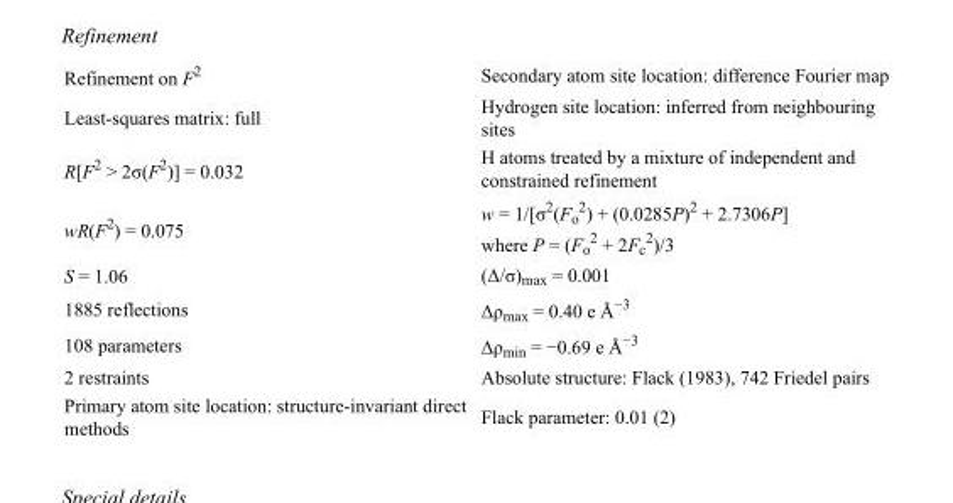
<table><tbody><tr><td>Refinement on F<sup>2</sup></td><td>Secondary atom site location: difference Fourier map</td></tr><tr><td>Least-squares matrix: full</td><td>Hydrogen site location: inferred from neighbouring sites</td></tr><tr><td>R[F<sup>2</sup> &gt; 2σ(F<sup>2</sup>)] = 0.032</td><td>H atoms treated by a mixture of independent and constrained refinement</td></tr><tr><td>wR(F<sup>2</sup>) = 0.075</td><td>w = 1/[σ<sup>2</sup>(F<sub>o</sub> <sup>2</sup>) + (0.0285P)<sup>2</sup> + 2.7306P] where P = (F<sub>o</sub> <sup>2</sup> + 2F<sub>c</sub> <sup>2</sup>)/3</td></tr><tr><td>S = 1.06</td><td>(Δ/σ)<sub>max</sub> = 0.001</td></tr><tr><td>1885 reflections</td><td>Δρ<sub>max</sub> = 0.40 e Å<sup>−3</sup></td></tr><tr><td>108 parameters</td><td>Δρ<sub>min</sub> = −0.69 e Å<sup>−3</sup></td></tr><tr><td>2 restraints</td><td>Absolute structure: Flack (1983), 742 Friedel pairs</td></tr><tr><td>Primary atom site location: structure-invariant direct methods</td><td>Flack parameter: 0.01 (2)</td></tr></tbody></table>